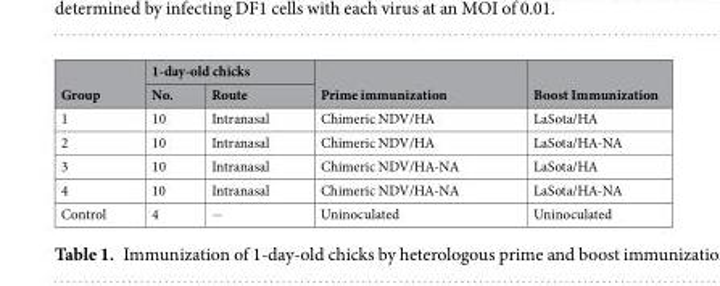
<table><thead><tr><td rowspan="2">Group</td><td colspan="2">1-day-old chicks</td><td rowspan="2">Prime immunization</td><td rowspan="2">Boost Immunization</td></tr><tr><td>No.</td><td>Route</td></tr></thead><tbody><tr><td>1</td><td>10</td><td>Intranasal</td><td>Chimeric NDV/HA</td><td>LaSota/HA</td></tr><tr><td>2</td><td>10</td><td>Intranasal</td><td>Chimeric NDV/HA</td><td>LaSota/HA-NA</td></tr><tr><td>3</td><td>10</td><td>Intranasal</td><td>Chimeric NDV/HA-NA</td><td>LaSota/HA</td></tr><tr><td>4</td><td>10</td><td>Intranasal</td><td>Chimeric NDV/HA-NA</td><td>LaSota/HA-NA</td></tr><tr><td>Control</td><td>4</td><td>−</td><td>Uninoculated</td><td>Uninoculated</td></tr></tbody></table>